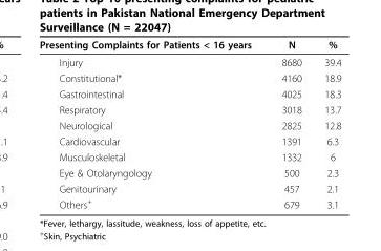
<table><thead><tr><td>Presenting Complaints for Patients &lt; 16 years</td><td>N</td><td>%</td></tr></thead><tbody><tr><td>Injury</td><td>8680</td><td>39.4</td></tr><tr><td>Constitutional*</td><td>4160</td><td>18.9</td></tr><tr><td>Gastrointestinal</td><td>4025</td><td>18.3</td></tr><tr><td>Respiratory</td><td>3018</td><td>13.7</td></tr><tr><td>Neurological</td><td>2825</td><td>12.8</td></tr><tr><td>Cardiovascular</td><td>1391</td><td>6.3</td></tr><tr><td>Musculoskeletal</td><td>1332</td><td>6</td></tr><tr><td>Eye &amp; Otolaryngology</td><td>500</td><td>2.3</td></tr><tr><td>Genitourinary</td><td>457</td><td>2.1</td></tr><tr><td>Others<sup>+</sup></td><td>679</td><td>3.1</td></tr></tbody></table>